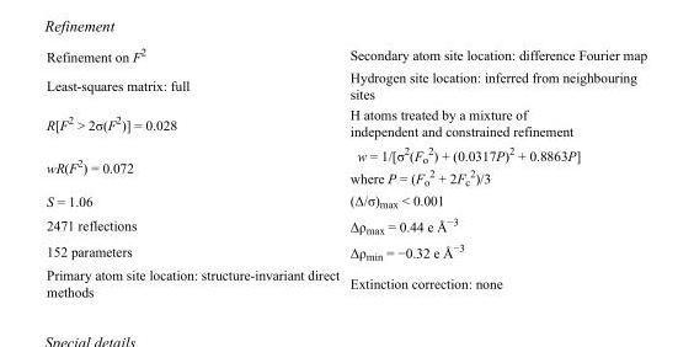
<table><tbody><tr><td>Refinement on F<sup>2</sup></td><td>Secondary atom site location: difference Fourier map</td></tr><tr><td>Least-squares matrix: full</td><td>Hydrogen site location: inferred from neighbouring sites</td></tr><tr><td>R[F<sup>2</sup> &gt; 2σ(F<sup>2</sup>)] = 0.028</td><td>H atoms treated by a mixture of independent and constrained refinement</td></tr><tr><td>wR(F<sup>2</sup>) = 0.072</td><td>w = 1/[σ<sup>2</sup>(F<sub>o</sub> <sup>2</sup>) + (0.0317P)<sup>2</sup> + 0.8863P] where P = (F<sub>o</sub> <sup>2</sup> + 2F<sub>c</sub> <sup>2</sup>)/3</td></tr><tr><td>S = 1.06</td><td>(Δ/σ)<sub>max</sub> &lt; 0.001</td></tr><tr><td>2471 reflections</td><td>Δρ<sub>max</sub> = 0.44 e Å<sup>−3</sup></td></tr><tr><td>152 parameters</td><td>Δρ<sub>min</sub> = −0.32 e Å<sup>−3</sup></td></tr><tr><td>Primary atom site location: structure-invariant direct methods</td><td>Extinction correction: none</td></tr></tbody></table>